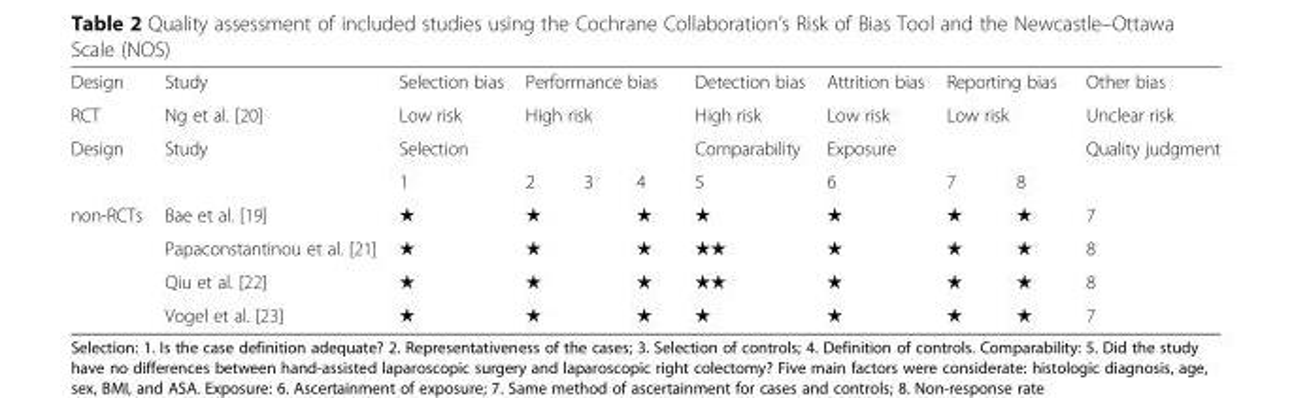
<table><tbody><tr><td>Design</td><td>Study</td><td>Selection bias</td><td colspan="3">Performance bias</td><td>Detection bias</td><td>Attrition bias</td><td colspan="2">Reporting bias</td><td>Other bias</td></tr><tr><td>RCT</td><td>Ng et al. [20]</td><td>Low risk</td><td colspan="3">High risk</td><td>High risk</td><td>Low risk</td><td colspan="2">Low risk</td><td>Unclear risk</td></tr><tr><td rowspan="2">Design</td><td>Study</td><td colspan="4">Selection</td><td>Comparability</td><td colspan="3">Exposure</td><td>Quality judgment</td></tr><tr><td></td><td>1</td><td>2</td><td>3</td><td>4</td><td>5</td><td>6</td><td>7</td><td>8</td><td></td></tr><tr><td rowspan="4">non-RCTs</td><td>Bae et al. [19]</td><td>★</td><td>★</td><td></td><td>★</td><td>★</td><td>★</td><td>★</td><td>★</td><td>7</td></tr><tr><td>Papaconstantinou et al. [21]</td><td>★</td><td>★</td><td></td><td>★</td><td>★★</td><td>★</td><td>★</td><td>★</td><td>8</td></tr><tr><td>Qiu et al. [22]</td><td>★</td><td>★</td><td></td><td>★</td><td>★★</td><td>★</td><td>★</td><td>★</td><td>8</td></tr><tr><td>Vogel et al. [23]</td><td>★</td><td>★</td><td></td><td>★</td><td>★</td><td>★</td><td>★</td><td>★</td><td>7</td></tr></tbody></table>